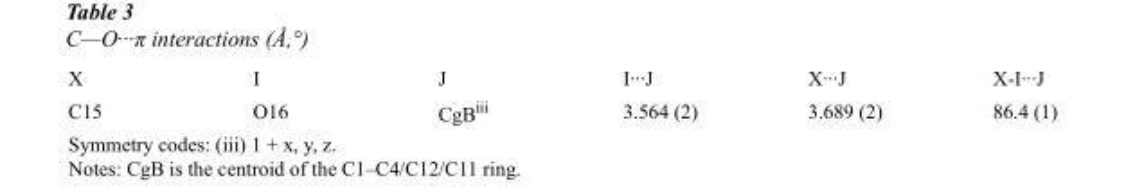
<table><tbody><tr><td>X</td><td>I</td><td>J</td><td>I···J</td><td>X···J</td><td>X-I···J</td></tr><tr><td>C15</td><td>O16</td><td>CgB<sup>iii</sup></td><td>3.564 (2)</td><td>3.689 (2)</td><td>86.4 (1)</td></tr></tbody></table>